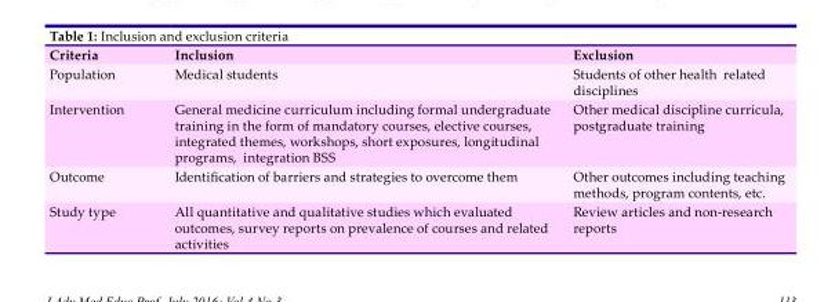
<table><thead><tr><td>Criteria</td><td>Inclusion</td><td>Exclusion</td></tr></thead><tbody><tr><td>Population</td><td>Medical students</td><td>Students of other health related disciplines</td></tr><tr><td>Intervention</td><td>General medicine curriculum including formal undergraduate training in the form of mandatory courses, elective courses, integrated themes, workshops, short exposures, longitudinal programs, integration BSS</td><td>Other medical discipline curricula, postgraduate training</td></tr><tr><td>Outcome</td><td>Identification of barriers and strategies to overcome them</td><td>Other outcomes including teaching methods, program contents, etc.</td></tr><tr><td>Study type</td><td>All quantitative and qualitative studies which evaluated outcomes, survey reports on prevalence of courses and related activities</td><td>Review articles and non-research reports</td></tr></tbody></table>